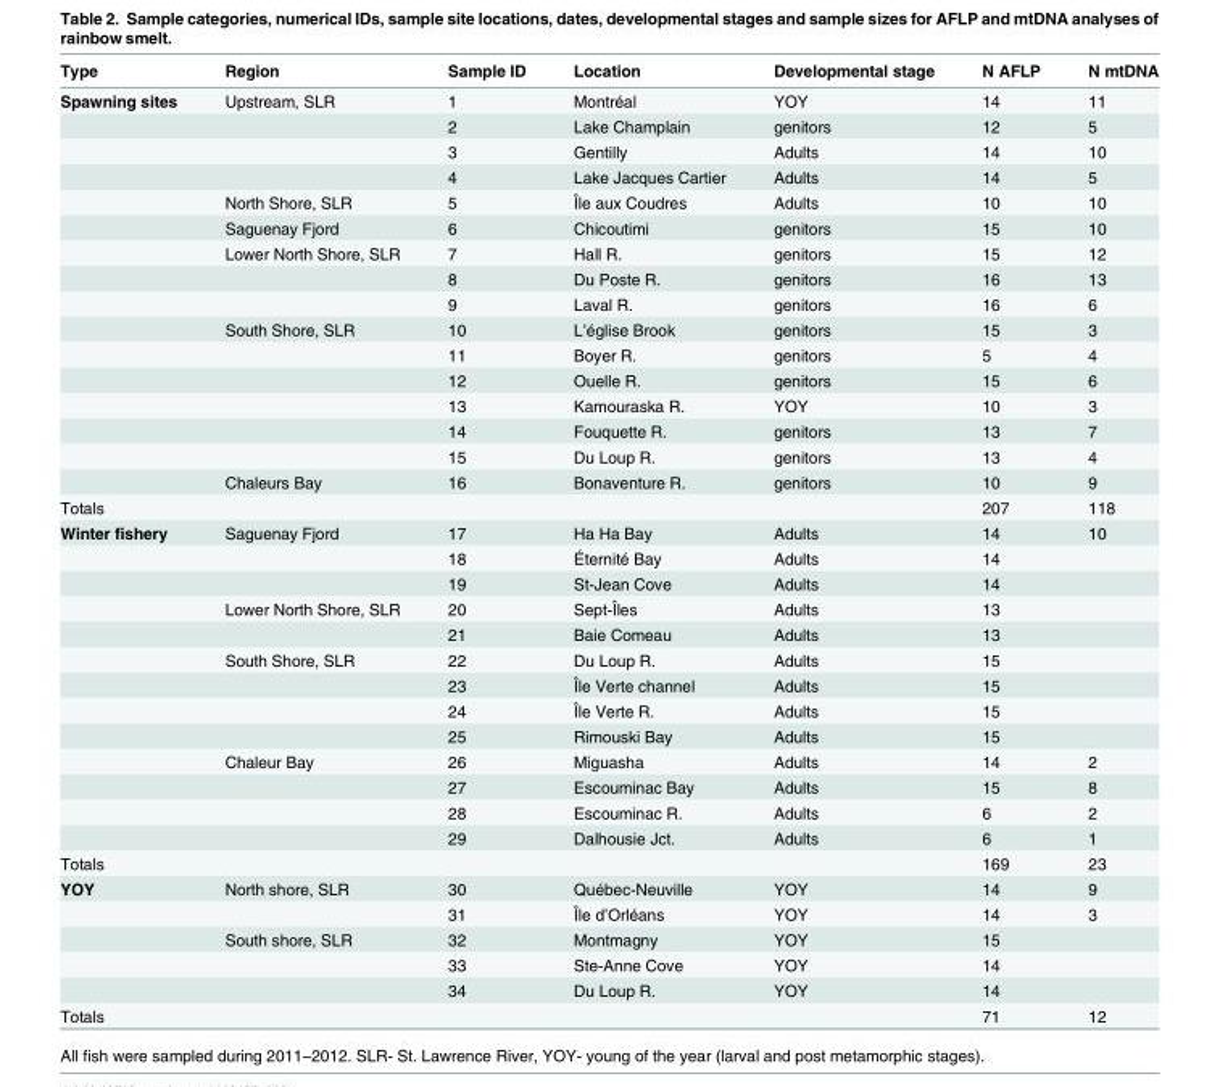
<table><thead><tr><td>Type</td><td>Region</td><td>Sample ID</td><td>Location</td><td>Developmental stage</td><td>N AFLP</td><td>N mtDNA</td></tr></thead><tbody><tr><td rowspan="16">Spawning sites</td><td>Upstream, SLR</td><td>1</td><td>Montréal</td><td>YOY</td><td>14</td><td>11</td></tr><tr><td></td><td>2</td><td>Lake Champlain</td><td>genitors</td><td>12</td><td>5</td></tr><tr><td></td><td>3</td><td>Gentilly</td><td>Adults</td><td>14</td><td>10</td></tr><tr><td></td><td>4</td><td>Lake Jacques Cartier</td><td>Adults</td><td>14</td><td>5</td></tr><tr><td>North Shore, SLR</td><td>5</td><td>Île aux Coudres</td><td>Adults</td><td>10</td><td>10</td></tr><tr><td>Saguenay Fjord</td><td>6</td><td>Chicoutimi</td><td>genitors</td><td>15</td><td>10</td></tr><tr><td>Lower North Shore, SLR</td><td>7</td><td>Hall R.</td><td>genitors</td><td>15</td><td>12</td></tr><tr><td></td><td>8</td><td>Du Poste R.</td><td>genitors</td><td>16</td><td>13</td></tr><tr><td></td><td>9</td><td>Laval R.</td><td>genitors</td><td>16</td><td>6</td></tr><tr><td>South Shore, SLR</td><td>10</td><td>L’église Brook</td><td>genitors</td><td>15</td><td>3</td></tr><tr><td></td><td>11</td><td>Boyer R.</td><td>genitors</td><td>5</td><td>4</td></tr><tr><td></td><td>12</td><td>Ouelle R.</td><td>genitors</td><td>15</td><td>6</td></tr><tr><td></td><td>13</td><td>Kamouraska R.</td><td>YOY</td><td>10</td><td>3</td></tr><tr><td></td><td>14</td><td>Fouquette R.</td><td>genitors</td><td>13</td><td>7</td></tr><tr><td></td><td>15</td><td>Du Loup R.</td><td>genitors</td><td>13</td><td>4</td></tr><tr><td>Chaleurs Bay</td><td>16</td><td>Bonaventure R.</td><td>genitors</td><td>10</td><td>9</td></tr><tr><td>Totals</td><td></td><td></td><td></td><td></td><td>207</td><td>118</td></tr><tr><td rowspan="13">Winter fishery</td><td>Saguenay Fjord</td><td>17</td><td>Ha Ha Bay</td><td>Adults</td><td>14</td><td>10</td></tr><tr><td></td><td>18</td><td>Éternité Bay</td><td>Adults</td><td>14</td><td></td></tr><tr><td></td><td>19</td><td>St-Jean Cove</td><td>Adults</td><td>14</td><td></td></tr><tr><td>Lower North Shore, SLR</td><td>20</td><td>Sept-Îles</td><td>Adults</td><td>13</td><td></td></tr><tr><td></td><td>21</td><td>Baie Comeau</td><td>Adults</td><td>13</td><td></td></tr><tr><td>South Shore, SLR</td><td>22</td><td>Du Loup R.</td><td>Adults</td><td>15</td><td></td></tr><tr><td></td><td>23</td><td>Île Verte channel</td><td>Adults</td><td>15</td><td></td></tr><tr><td></td><td>24</td><td>Île Verte R.</td><td>Adults</td><td>15</td><td></td></tr><tr><td></td><td>25</td><td>Rimouski Bay</td><td>Adults</td><td>15</td><td></td></tr><tr><td>Chaleur Bay</td><td>26</td><td>Miguasha</td><td>Adults</td><td>14</td><td>2</td></tr><tr><td></td><td>27</td><td>Escouminac Bay</td><td>Adults</td><td>15</td><td>8</td></tr><tr><td></td><td>28</td><td>Escouminac R.</td><td>Adults</td><td>6</td><td>2</td></tr><tr><td></td><td>29</td><td>Dalhousie Jct.</td><td>Adults</td><td>6</td><td>1</td></tr><tr><td>Totals</td><td></td><td></td><td></td><td></td><td>169</td><td>23</td></tr><tr><td rowspan="5">YOY</td><td>North shore, SLR</td><td>30</td><td>Québec-Neuville</td><td>YOY</td><td>14</td><td>9</td></tr><tr><td></td><td>31</td><td>Île d’Orléans</td><td>YOY</td><td>14</td><td>3</td></tr><tr><td>South shore, SLR</td><td>32</td><td>Montmagny</td><td>YOY</td><td>15</td><td></td></tr><tr><td></td><td>33</td><td>Ste-Anne Cove</td><td>YOY</td><td>14</td><td></td></tr><tr><td></td><td>34</td><td>Du Loup R.</td><td>YOY</td><td>14</td><td></td></tr><tr><td>Totals</td><td></td><td></td><td></td><td></td><td>71</td><td>12</td></tr></tbody></table>